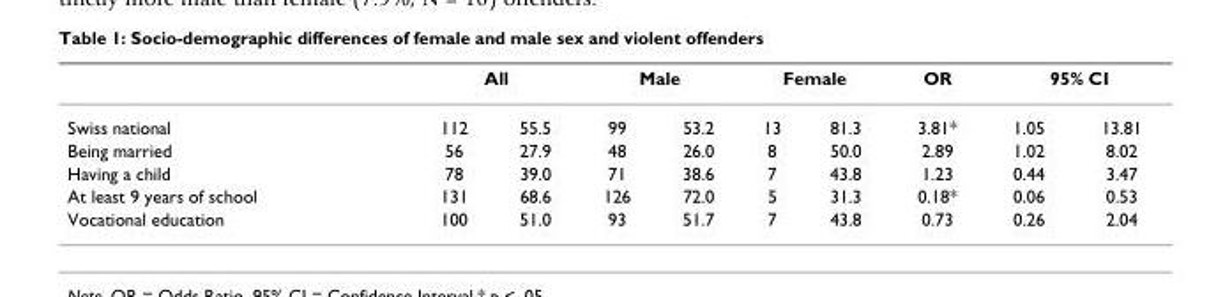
<table><thead><tr><td rowspan="2">Swiss national</td><td colspan="2">All</td><td colspan="2">Male</td><td colspan="2">Female</td><td rowspan="2">OR 3.81*</td><td colspan="2">95% CI</td></tr><tr><td>112</td><td>55.5</td><td>99</td><td>53.2</td><td>13</td><td>81.3</td><td>1.05</td><td>13.81</td></tr></thead><tbody><tr><td>Being married</td><td>56</td><td>27.9</td><td>48</td><td>26.0</td><td>8</td><td>50.0</td><td>2.89</td><td>1.02</td><td>8.02</td></tr><tr><td>Having a child</td><td>78</td><td>39.0</td><td>71</td><td>38.6</td><td>7</td><td>43.8</td><td>1.23</td><td>0.44</td><td>3.47</td></tr><tr><td>At least 9 years of school</td><td>131</td><td>68.6</td><td>126</td><td>72.0</td><td>5</td><td>31.3</td><td>0.18*</td><td>0.06</td><td>0.53</td></tr><tr><td>Vocational education</td><td>100</td><td>51.0</td><td>93</td><td>51.7</td><td>7</td><td>43.8</td><td>0.73</td><td>0.26</td><td>2.04</td></tr></tbody></table>